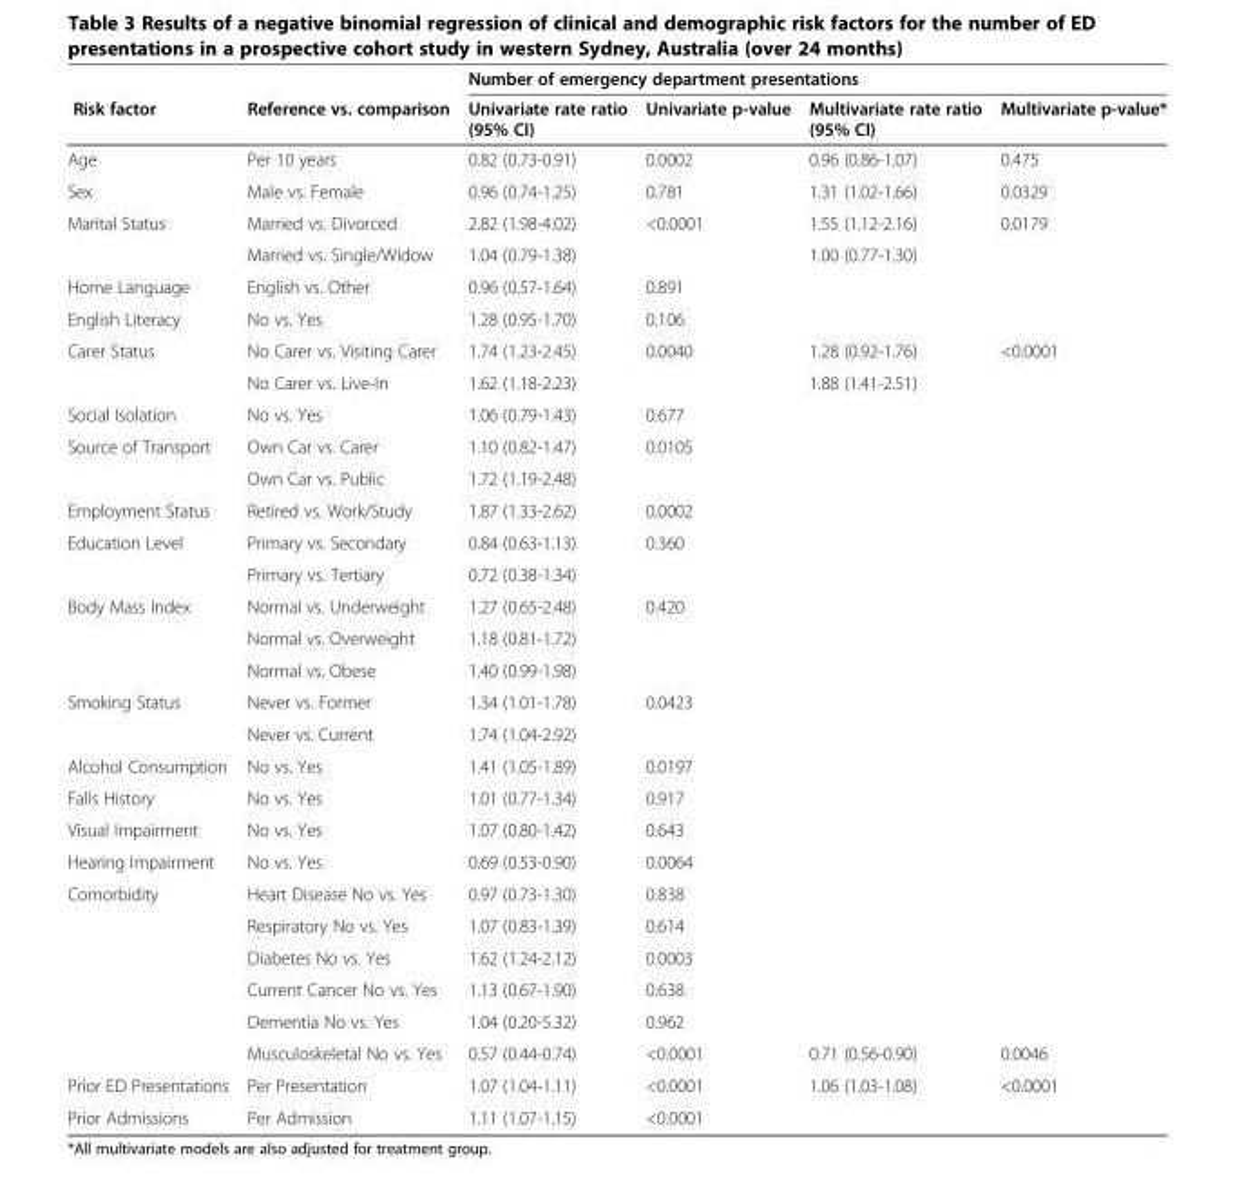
<table><thead><tr><td rowspan="2">Risk factor</td><td rowspan="2">Reference vs. comparison</td><td colspan="4">Number of emergency department presentations</td></tr><tr><td>Univariate rate ratio (95% CI)</td><td>Univariate p-value</td><td>Multivariate rate ratio (95% CI)</td><td>Multivariate p-value*</td></tr></thead><tbody><tr><td>Age</td><td>Per 10 years</td><td>0.82 (0.73-0.91)</td><td>0.0002</td><td>0.96 (0.86-1.07)</td><td>0.475</td></tr><tr><td>Sex</td><td>Male vs. Female</td><td>0.96 (0.74-1.25)</td><td>0.781</td><td>1.31 (1.02-1.66)</td><td>0.0329</td></tr><tr><td rowspan="2">Marital Status</td><td>Married vs. Divorced</td><td>2.82 (1.98-4.02)</td><td>&lt;0.0001</td><td>1.55 (1.12-2.16)</td><td>0.0179</td></tr><tr><td>Married vs. Single/Widow</td><td>1.04 (0.79-1.38)</td><td></td><td>1.00 (0.77-1.30)</td><td></td></tr><tr><td>Home Language</td><td>English vs. Other</td><td>0.96 (0.57-1.64)</td><td>0.891</td><td></td><td></td></tr><tr><td>English Literacy</td><td>No vs. Yes</td><td>1.28 (0.95-1.70)</td><td>0.106</td><td></td><td></td></tr><tr><td rowspan="2">Carer Status</td><td>No Carer vs. Visiting Carer</td><td>1.74 (1.23-2.45)</td><td>0.0040</td><td>1.28 (0.92-1.76)</td><td>&lt;0.0001</td></tr><tr><td>No Carer vs. Live-In</td><td>1.62 (1.18-2.23)</td><td></td><td>1.88 (1.41-2.51)</td><td></td></tr><tr><td>Social Isolation</td><td>No vs. Yes</td><td>1.06 (0.79-1.43)</td><td>0.677</td><td></td><td></td></tr><tr><td rowspan="2">Source of Transport</td><td>Own Car vs. Carer</td><td>1.10 (0.82-1.47)</td><td>0.0105</td><td></td><td></td></tr><tr><td>Own Car vs. Public</td><td>1.72 (1.19-2.48)</td><td></td><td></td><td></td></tr><tr><td>Employment Status</td><td>Retired vs. Work/Study</td><td>1.87 (1.33-2.62)</td><td>0.0002</td><td></td><td></td></tr><tr><td rowspan="2">Education Level</td><td>Primary vs. Secondary</td><td>0.84 (0.63-1.13)</td><td>0.360</td><td></td><td></td></tr><tr><td>Primary vs. Tertiary</td><td>0.72 (0.38-1.34)</td><td></td><td></td><td></td></tr><tr><td rowspan="3">Body Mass Index</td><td>Normal vs. Underweight</td><td>1.27 (0.65-2.48)</td><td>0.420</td><td></td><td></td></tr><tr><td>Normal vs. Overweight</td><td>1.18 (0.81-1.72)</td><td></td><td></td><td></td></tr><tr><td>Normal vs. Obese</td><td>1.40 (0.99-1.98)</td><td></td><td></td><td></td></tr><tr><td rowspan="2">Smoking Status</td><td>Never vs. Former</td><td>1.34 (1.01-1.78)</td><td>0.0423</td><td></td><td></td></tr><tr><td>Never vs. Current</td><td>1.74 (1.04-2.92)</td><td></td><td></td><td></td></tr><tr><td>Alcohol Consumption</td><td>No vs. Yes</td><td>1.41 (1.05-1.89)</td><td>0.0197</td><td></td><td></td></tr><tr><td>Falls History</td><td>No vs. Yes</td><td>1.01 (0.77-1.34)</td><td>0.917</td><td></td><td></td></tr><tr><td>Visual Impairment</td><td>No vs. Yes</td><td>1.07 (0.80-1.42)</td><td>0.643</td><td></td><td></td></tr><tr><td>Hearing Impairment</td><td>No vs. Yes</td><td>0.69 (0.53-0.90)</td><td>0.0064</td><td></td><td></td></tr><tr><td rowspan="6">Comorbidity</td><td>Heart Disease No vs. Yes</td><td>0.97 (0.73-1.30)</td><td>0.838</td><td></td><td></td></tr><tr><td>Respiratory No vs. Yes</td><td>1.07 (0.83-1.39)</td><td>0.614</td><td></td><td></td></tr><tr><td>Diabetes No vs. Yes</td><td>1.62 (1.24-2.12)</td><td>0.0003</td><td></td><td></td></tr><tr><td>Current Cancer No vs. Yes</td><td>1.13 (0.67-1.90)</td><td>0.638</td><td></td><td></td></tr><tr><td>Dementia No vs. Yes</td><td>1.04 (0.20-5.32)</td><td>0.962</td><td></td><td></td></tr><tr><td>Musculoskeletal No vs. Yes</td><td>0.57 (0.44-0.74)</td><td>&lt;0.0001</td><td>0.71 (0.56-0.90)</td><td>0.0046</td></tr><tr><td>Prior ED Presentations</td><td>Per Presentation</td><td>1.07 (1.04-1.11)</td><td>&lt;0.0001</td><td>1.06 (1.03-1.08)</td><td>&lt;0.0001</td></tr><tr><td>Prior Admissions</td><td>Per Admission</td><td>1.11 (1.07-1.15)</td><td>&lt;0.0001</td><td></td><td></td></tr></tbody></table>